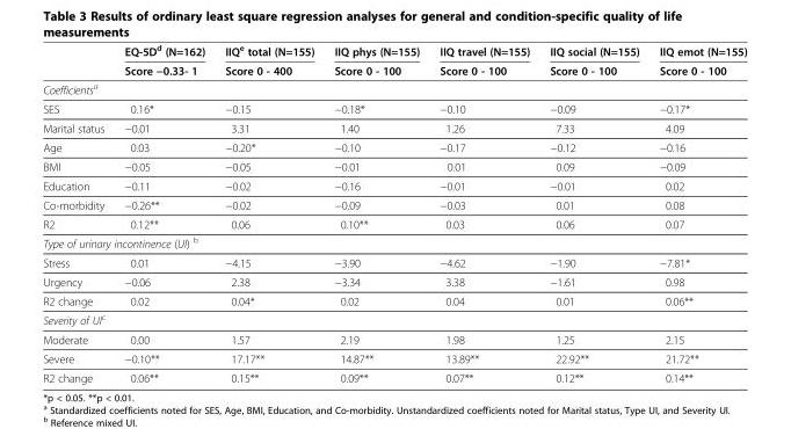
<table><thead><tr><td rowspan="2"></td><td rowspan="2">EQ-5D<sup>d</sup> (N=162) Score −0.33- 1</td><td rowspan="2">IIQ<sup>e</sup> total (N=155) Score 0 - 400</td><td rowspan="2">IIQ phys (N=155) Score 0 - 100</td><td rowspan="2">IIQ travel (N=155) Score 0 - 100</td><td rowspan="2">IIQ social (N=155) Score 0 - 100</td><td rowspan="2">IIQ emot (N=155) Score 0 - 100</td></tr><tr></tr></thead><tbody><tr><td colspan="7">Coefficients<sup>a</sup></td></tr><tr><td>SES</td><td>0.16*</td><td>−0.15</td><td>−0.18*</td><td>−0.10</td><td>−0.09</td><td>−0.17*</td></tr><tr><td>Marital status</td><td>−0.01</td><td>3.31</td><td>1.40</td><td>1.26</td><td>7.33</td><td>4.09</td></tr><tr><td>Age</td><td>0.03</td><td>−0.20*</td><td>−0.10</td><td>−0.17</td><td>−0.12</td><td>−0.16</td></tr><tr><td>BMI</td><td>−0.05</td><td>−0.05</td><td>−0.01</td><td>0.01</td><td>0.09</td><td>−0.09</td></tr><tr><td>Education</td><td>−0.11</td><td>−0.02</td><td>−0.16</td><td>−0.01</td><td>−0.01</td><td>0.02</td></tr><tr><td>Co-morbidity</td><td>−0.26**</td><td>−0.02</td><td>−0.09</td><td>−0.03</td><td>0.01</td><td>0.08</td></tr><tr><td>R2</td><td>0.12**</td><td>0.06</td><td>0.10**</td><td>0.03</td><td>0.06</td><td>0.07</td></tr><tr><td colspan="7">Type of urinary incontinence (UI) <sup>b</sup></td></tr><tr><td>Stress</td><td>0.01</td><td>−4.15</td><td>−3.90</td><td>−4.62</td><td>−1.90</td><td>−7.81*</td></tr><tr><td>Urgency</td><td>−0.06</td><td>2.38</td><td>−3.34</td><td>3.38</td><td>−1.61</td><td>0.98</td></tr><tr><td>R2 change</td><td>0.02</td><td>0.04*</td><td>0.02</td><td>0.04</td><td>0.01</td><td>0.06**</td></tr><tr><td colspan="7">Severity of UI<sup>c</sup></td></tr><tr><td>Moderate</td><td>0.00</td><td>1.57</td><td>2.19</td><td>1.98</td><td>1.25</td><td>2.15</td></tr><tr><td>Severe</td><td>−0.10**</td><td>17.17**</td><td>14.87**</td><td>13.89**</td><td>22.92**</td><td>21.72**</td></tr><tr><td>R2 change</td><td>0.06**</td><td>0.15**</td><td>0.09**</td><td>0.07**</td><td>0.12**</td><td>0.14**</td></tr></tbody></table>